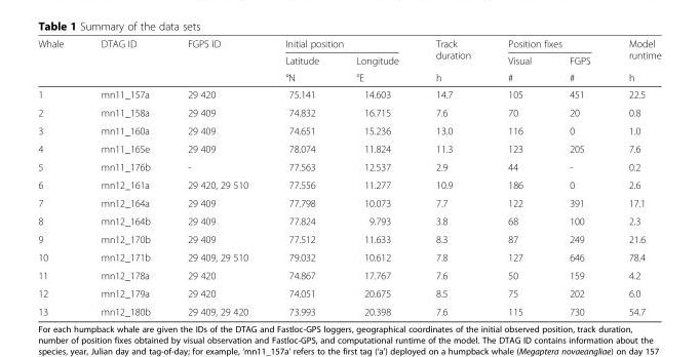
<table><thead><tr><td rowspan="3">Whale</td><td rowspan="3">DTAG ID</td><td rowspan="3">FGPS ID</td><td colspan="2">Initial position</td><td rowspan="3">Track duration h</td><td colspan="2">Position fixes</td><td rowspan="3">Model runtime h</td></tr><tr><td rowspan="2">Latitude °N</td><td rowspan="2">Longitude °E</td><td rowspan="2">Visual #</td><td rowspan="2">FGPS #</td></tr><tr></tr></thead><tbody><tr><td>1</td><td>mn11_157a</td><td>29 420</td><td>75.141</td><td>14.603</td><td>14.7</td><td>105</td><td>451</td><td>22.5</td></tr><tr><td>2</td><td>mn11_158a</td><td>29 409</td><td>74.832</td><td>16.715</td><td>7.6</td><td>70</td><td>20</td><td>0.8</td></tr><tr><td>3</td><td>mn11_160a</td><td>29 409</td><td>74.651</td><td>15.236</td><td>13.0</td><td>116</td><td>0</td><td>1.0</td></tr><tr><td>4</td><td>mn11_165e</td><td>29 409</td><td>78.074</td><td>11.824</td><td>11.3</td><td>123</td><td>205</td><td>7.6</td></tr><tr><td>5</td><td>mn11_176b</td><td>-</td><td>77.563</td><td>12.537</td><td>2.9</td><td>44</td><td>-</td><td>0.2</td></tr><tr><td>6</td><td>mn12_161a</td><td>29 420, 29 510</td><td>77.556</td><td>11.277</td><td>10.9</td><td>186</td><td>0</td><td>2.6</td></tr><tr><td>7</td><td>mn12_164a</td><td>29 409</td><td>77.798</td><td>10.073</td><td>7.7</td><td>122</td><td>391</td><td>17.1</td></tr><tr><td>8</td><td>mn12_164b</td><td>29 409</td><td>77.824</td><td>9.793</td><td>3.8</td><td>68</td><td>100</td><td>2.3</td></tr><tr><td>9</td><td>mn12_170b</td><td>29 409</td><td>77.512</td><td>11.633</td><td>8.3</td><td>87</td><td>249</td><td>21.6</td></tr><tr><td>10</td><td>mn12_171b</td><td>29 409, 29 510</td><td>79.032</td><td>10.612</td><td>7.8</td><td>127</td><td>646</td><td>78.4</td></tr><tr><td>11</td><td>mn12_178a</td><td>29 420</td><td>74.867</td><td>17.767</td><td>7.6</td><td>50</td><td>159</td><td>4.2</td></tr><tr><td>12</td><td>mn12_179a</td><td>29 420</td><td>74.051</td><td>20.675</td><td>8.5</td><td>75</td><td>202</td><td>6.0</td></tr><tr><td>13</td><td>mn12_180b</td><td>29 409, 29 420</td><td>73.993</td><td>20.398</td><td>7.6</td><td>115</td><td>730</td><td>54.7</td></tr></tbody></table>